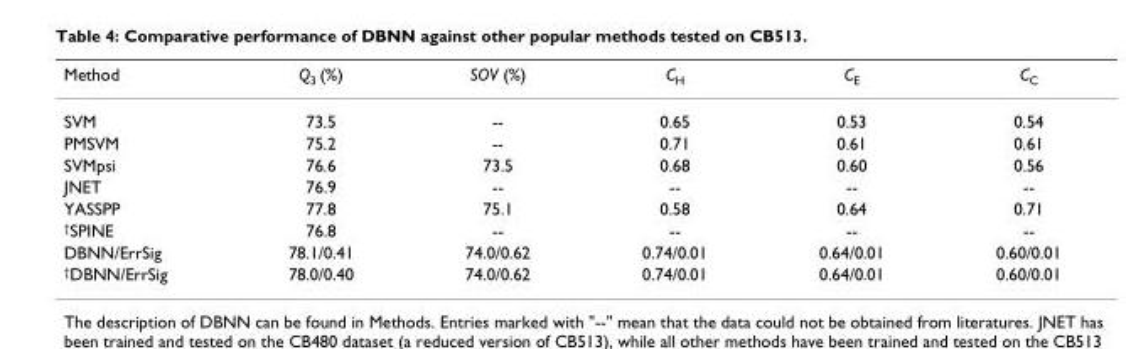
<table><thead><tr><td>Method</td><td>Q<sub>3</sub> (%)</td><td>SOV (%)</td><td>C<sub>H</sub></td><td>C<sub>E</sub></td><td>C<sub>C</sub></td></tr></thead><tbody><tr><td>SVM</td><td>73.5</td><td>--</td><td>0.65</td><td>0.53</td><td>0.54</td></tr><tr><td>PMSVM</td><td>75.2</td><td>--</td><td>0.71</td><td>0.61</td><td>0.61</td></tr><tr><td>SVMpsi</td><td>76.6</td><td>73.5</td><td>0.68</td><td>0.60</td><td>0.56</td></tr><tr><td>JNET</td><td>76.9</td><td>--</td><td>--</td><td>--</td><td>--</td></tr><tr><td>YASSPP</td><td>77.8</td><td>75.1</td><td>0.58</td><td>0.64</td><td>0.71</td></tr><tr><td><sup>†</sup>SPINE</td><td>76.8</td><td>--</td><td>--</td><td>--</td><td>--</td></tr><tr><td>DBNN/ErrSig</td><td>78.1/0.41</td><td>74.0/0.62</td><td>0.74/0.01</td><td>0.64/0.01</td><td>0.60/0.01</td></tr><tr><td><sup>†</sup>DBNN/ErrSig</td><td>78.0/0.40</td><td>74.0/0.62</td><td>0.74/0.01</td><td>0.64/0.01</td><td>0.60/0.01</td></tr></tbody></table>